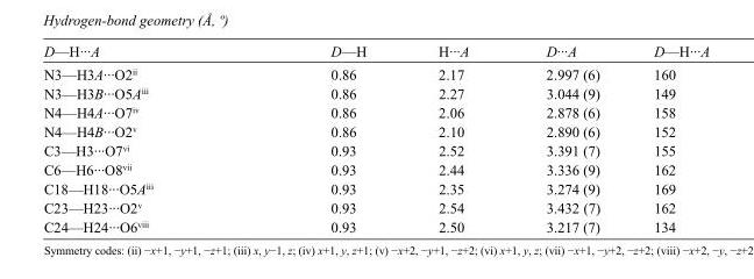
<table><tbody><tr><td>D—H···A</td><td>D—H</td><td>H···A</td><td>D···A</td><td>D—H···A</td></tr><tr><td>N3—H3A···O2<sup>ii</sup></td><td>0.86</td><td>2.17</td><td>2.997 (6)</td><td>160</td></tr><tr><td>N3—H3B···O5A<sup>iii</sup></td><td>0.86</td><td>2.27</td><td>3.044 (9)</td><td>149</td></tr><tr><td>N4—H4A···O7<sup>iv</sup></td><td>0.86</td><td>2.06</td><td>2.878 (6)</td><td>158</td></tr><tr><td>N4—H4B···O2<sup>v</sup></td><td>0.86</td><td>2.10</td><td>2.890 (6)</td><td>152</td></tr><tr><td>C3—H3···O7<sup>vi</sup></td><td>0.93</td><td>2.52</td><td>3.391 (7)</td><td>155</td></tr><tr><td>C6—H6···O8<sup>vii</sup></td><td>0.93</td><td>2.44</td><td>3.336 (9)</td><td>162</td></tr><tr><td>C18—H18···O5A<sup>iii</sup></td><td>0.93</td><td>2.35</td><td>3.274 (9)</td><td>169</td></tr><tr><td>C23—H23···O2<sup>v</sup></td><td>0.93</td><td>2.54</td><td>3.432 (7)</td><td>162</td></tr><tr><td>C24—H24···O6<sup>viii</sup></td><td>0.93</td><td>2.50</td><td>3.217 (7)</td><td>134</td></tr></tbody></table>